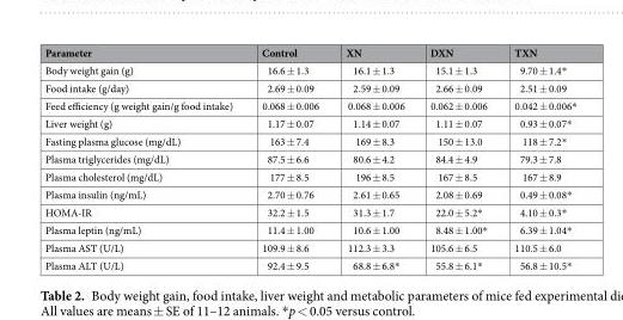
<table><thead><tr><td>Parameter</td><td>Control</td><td>XN</td><td>DXN</td><td>TXN</td></tr></thead><tbody><tr><td>Body weight gain (g)</td><td>16.6 ± 1.3</td><td>16.1 ± 1.3</td><td>15.1 ± 1.3</td><td>9.70 ± 1.4*</td></tr><tr><td>Food intake (g/day)</td><td>2.69 ± 0.09</td><td>2.59 ± 0.09</td><td>2.66 ± 0.09</td><td>2.51 ± 0.09</td></tr><tr><td>Feed efficiency (g weight gain/g food intake)</td><td>0.068 ± 0.006</td><td>0.068 ± 0.006</td><td>0.062 ± 0.006</td><td>0.042 ± 0.006*</td></tr><tr><td>Liver weight (g)</td><td>1.17 ± 0.07</td><td>1.14 ± 0.07</td><td>1.11 ± 0.07</td><td>0.93 ± 0.07*</td></tr><tr><td>Fasting plasma glucose (mg/dL)</td><td>163 ± 7.4</td><td>169 ± 8.3</td><td>150 ± 13.0</td><td>118 ± 7.2*</td></tr><tr><td>Plasma triglycerides (mg/dL)</td><td>87.5 ± 6.6</td><td>80.6 ± 4.2</td><td>84.4 ± 4.9</td><td>79.3 ± 7.8</td></tr><tr><td>Plasma cholesterol (mg/dL)</td><td>177 ± 8.5</td><td>196 ± 8.5</td><td>167 ± 8.5</td><td>167 ± 8.9</td></tr><tr><td>Plasma insulin (ng/mL)</td><td>2.70 ± 0.76</td><td>2.61 ± 0.65</td><td>2.08 ± 0.69</td><td>0.49 ± 0.08*</td></tr><tr><td>HOMA-IR</td><td>32.2 ± 1.5</td><td>31.3 ± 1.7</td><td>22.0 ± 5.2*</td><td>4.10 ± 0.3*</td></tr><tr><td>Plasma leptin (ng/mL)</td><td>11.4 ± 1.00</td><td>10.6 ± 1.00</td><td>8.48 ± 1.00*</td><td>6.39 ± 1.04*</td></tr><tr><td>Plasma AST (U/L)</td><td>109.9 ± 8.6</td><td>112.3 ± 3.3</td><td>105.6 ± 6.5</td><td>110.5 ± 6.0</td></tr><tr><td>Plasma ALT (U/L)</td><td>92.4 ± 9.5</td><td>68.8 ± 6.8*</td><td>55.8 ± 6.1*</td><td>56.8 ± 10.5*</td></tr></tbody></table>